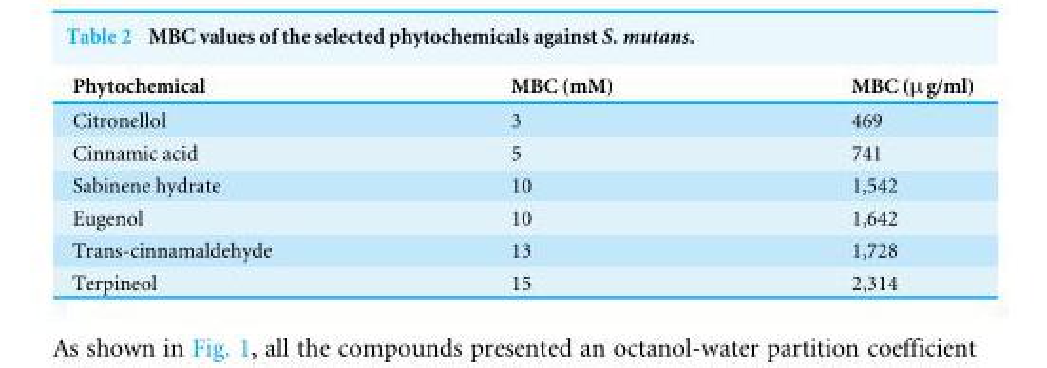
<table><thead><tr><td>Phytochemical</td><td>MBC (mM)</td><td>MBC (µg/ml)</td></tr></thead><tbody><tr><td>Citronellol</td><td>3</td><td>469</td></tr><tr><td>Cinnamic acid</td><td>5</td><td>741</td></tr><tr><td>Sabinene hydrate</td><td>10</td><td>1,542</td></tr><tr><td>Eugenol</td><td>10</td><td>1,642</td></tr><tr><td>Trans-cinnamaldehyde</td><td>13</td><td>1,728</td></tr><tr><td>Terpineol</td><td>15</td><td>2,314</td></tr></tbody></table>